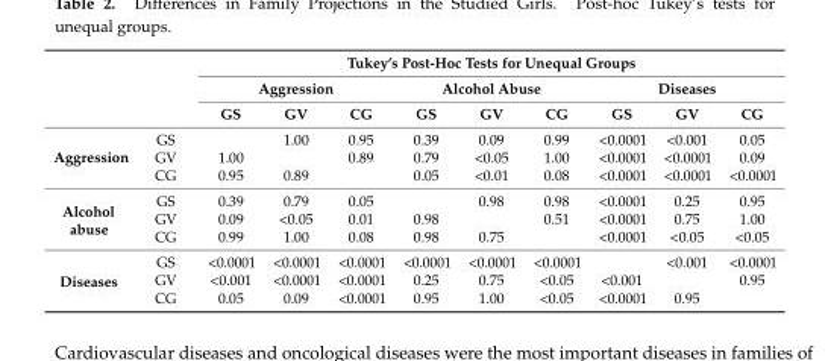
<table><thead><tr><td rowspan="3"></td><td rowspan="3"></td><td colspan="9">Tukey’s Post-Hoc Tests for Unequal Groups</td></tr><tr><td colspan="3">Aggression</td><td colspan="3">Alcohol Abuse</td><td colspan="3">Diseases</td></tr><tr><td>GS</td><td>GV</td><td>CG</td><td>GS</td><td>GV</td><td>CG</td><td>GS</td><td>GV</td><td>CG</td></tr></thead><tbody><tr><td rowspan="3">Aggression</td><td>GS</td><td></td><td>1.00</td><td>0.95</td><td>0.39</td><td>0.09</td><td>0.99</td><td>&lt;0.0001</td><td>&lt;0.001</td><td>0.05</td></tr><tr><td>GV</td><td>1.00</td><td></td><td>0.89</td><td>0.79</td><td>&lt;0.05</td><td>1.00</td><td>&lt;0.0001</td><td>&lt;0.0001</td><td>0.09</td></tr><tr><td>CG</td><td>0.95</td><td>0.89</td><td></td><td>0.05</td><td>&lt;0.01</td><td>0.08</td><td>&lt;0.0001</td><td>&lt;0.0001</td><td>&lt;0.0001</td></tr><tr><td rowspan="3">Alcohol abuse</td><td>GS</td><td>0.39</td><td>0.79</td><td>0.05</td><td></td><td>0.98</td><td>0.98</td><td>&lt;0.0001</td><td>0.25</td><td>0.95</td></tr><tr><td>GV</td><td>0.09</td><td>&lt;0.05</td><td>0.01</td><td>0.98</td><td></td><td>0.51</td><td>&lt;0.0001</td><td>0.75</td><td>1.00</td></tr><tr><td>CG</td><td>0.99</td><td>1.00</td><td>0.08</td><td>0.98</td><td>0.75</td><td></td><td>&lt;0.0001</td><td>&lt;0.05</td><td>&lt;0.05</td></tr><tr><td rowspan="3">Diseases</td><td>GS</td><td>&lt;0.0001</td><td>&lt;0.0001</td><td>&lt;0.0001</td><td>&lt;0.0001</td><td>&lt;0.0001</td><td>&lt;0.0001</td><td></td><td>&lt;0.001</td><td>&lt;0.0001</td></tr><tr><td>GV</td><td>&lt;0.001</td><td>&lt;0.0001</td><td>&lt;0.0001</td><td>0.25</td><td>0.75</td><td>&lt;0.05</td><td>&lt;0.001</td><td></td><td>0.95</td></tr><tr><td>CG</td><td>0.05</td><td>0.09</td><td>&lt;0.0001</td><td>0.95</td><td>1.00</td><td>&lt;0.05</td><td>&lt;0.0001</td><td>0.95</td><td></td></tr></tbody></table>